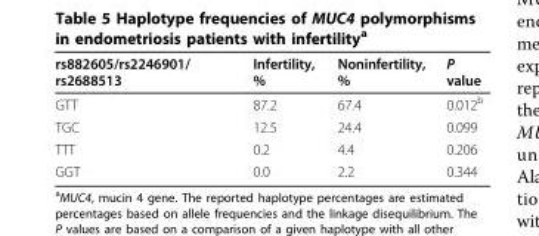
<table><thead><tr><td>rs882605/rs2246901/ rs2688513</td><td>Infertility, %</td><td>Noninfertility, %</td><td>P value</td></tr></thead><tbody><tr><td>GTT</td><td>87.2</td><td>67.4</td><td>0.012<sup>b</sup></td></tr><tr><td>TGC</td><td>12.5</td><td>24.4</td><td>0.099</td></tr><tr><td>TTT</td><td>0.2</td><td>4.4</td><td>0.206</td></tr><tr><td>GGT</td><td>0.0</td><td>2.2</td><td>0.344</td></tr></tbody></table>